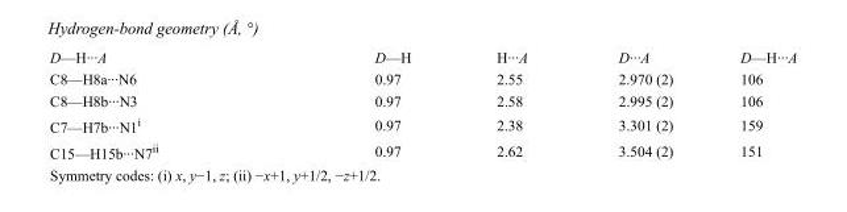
<table><tbody><tr><td>D—H···A</td><td>D—H</td><td>H···A</td><td>D···A</td><td>D—H···A</td></tr><tr><td>C8—H8a···N6</td><td>0.97</td><td>2.55</td><td>2.970 (2)</td><td>106</td></tr><tr><td>C8—H8b···N3</td><td>0.97</td><td>2.58</td><td>2.995 (2)</td><td>106</td></tr><tr><td>C7—H7b···N1<sup>i</sup></td><td>0.97</td><td>2.38</td><td>3.301 (2)</td><td>159</td></tr><tr><td>C15—H15b···N7<sup>ii</sup></td><td>0.97</td><td>2.62</td><td>3.504 (2)</td><td>151</td></tr></tbody></table>